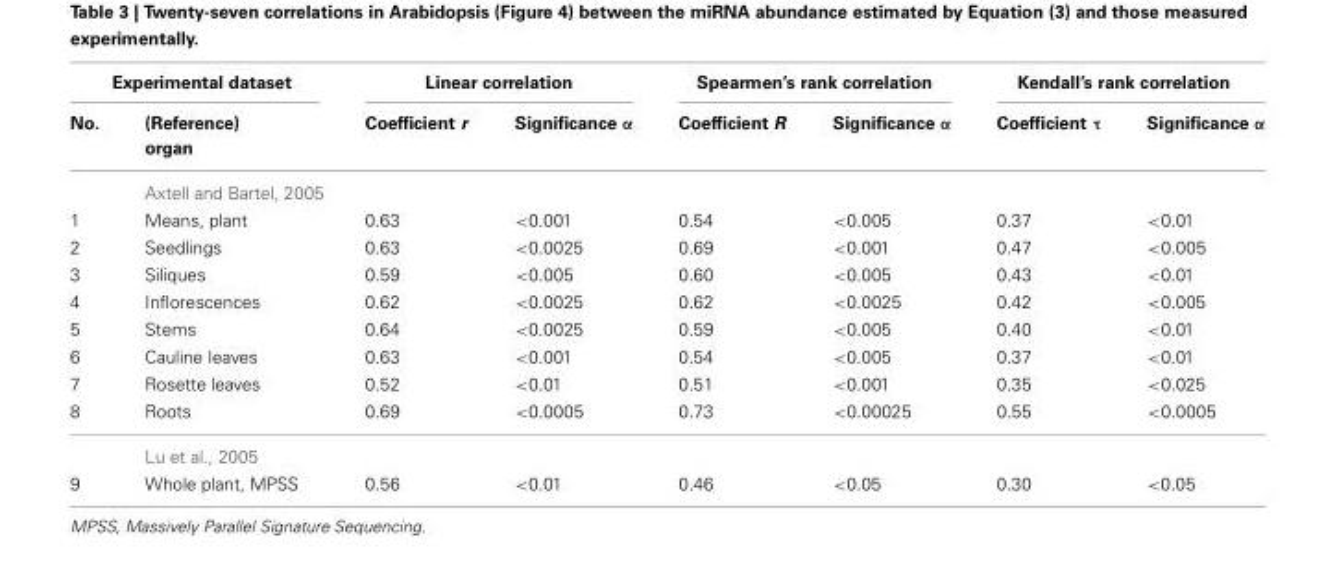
<table><thead><tr><td colspan="2">Experimental dataset</td><td colspan="2">Linear correlation</td><td colspan="2">Spearmen’s rank correlation</td><td colspan="2">Kendall’s rank correlation</td></tr><tr><td>No.</td><td>(Reference) organ</td><td>Coefficient r</td><td>Significance α</td><td>Coefficient R</td><td>Significance α</td><td>Coefficient τ</td><td>Significance α</td></tr></thead><tbody><tr><td></td><td colspan="7">Axtell and Bartel, 2005</td></tr><tr><td>1</td><td>Means, plant</td><td>0.63</td><td>&lt;0.001</td><td>0.54</td><td>&lt;0.005</td><td>0.37</td><td>&lt;0.01</td></tr><tr><td>2</td><td>Seedlings</td><td>0.63</td><td>&lt;0.0025</td><td>0.69</td><td>&lt;0.001</td><td>0.47</td><td>&lt;0.005</td></tr><tr><td>3</td><td>Siliques</td><td>0.59</td><td>&lt;0.005</td><td>0.60</td><td>&lt;0.005</td><td>0.43</td><td>&lt;0.01</td></tr><tr><td>4</td><td>Inflorescences</td><td>0.62</td><td>&lt;0.0025</td><td>0.62</td><td>&lt;0.0025</td><td>0.42</td><td>&lt;0.005</td></tr><tr><td>5</td><td>Stems</td><td>0.64</td><td>&lt;0.0025</td><td>0.59</td><td>&lt;0.005</td><td>0.40</td><td>&lt;0.01</td></tr><tr><td>6</td><td>Cauline leaves</td><td>0.63</td><td>&lt;0.001</td><td>0.54</td><td>&lt;0.005</td><td>0.37</td><td>&lt;0.01</td></tr><tr><td>7</td><td>Rosette leaves</td><td>0.52</td><td>&lt;0.01</td><td>0.51</td><td>&lt;0.001</td><td>0.35</td><td>&lt;0.025</td></tr><tr><td rowspan="2">8</td><td>Roots</td><td>0.69</td><td>&lt;0.0005</td><td>0.73</td><td>&lt;0.00025</td><td>0.55</td><td>&lt;0.0005</td></tr><tr><td colspan="7">Lu et al., 2005</td></tr><tr><td>9</td><td>Whole plant, MPSS</td><td>0.56</td><td>&lt;0.01</td><td>0.46</td><td>&lt;0.05</td><td>0.30</td><td>&lt;0.05</td></tr></tbody></table>